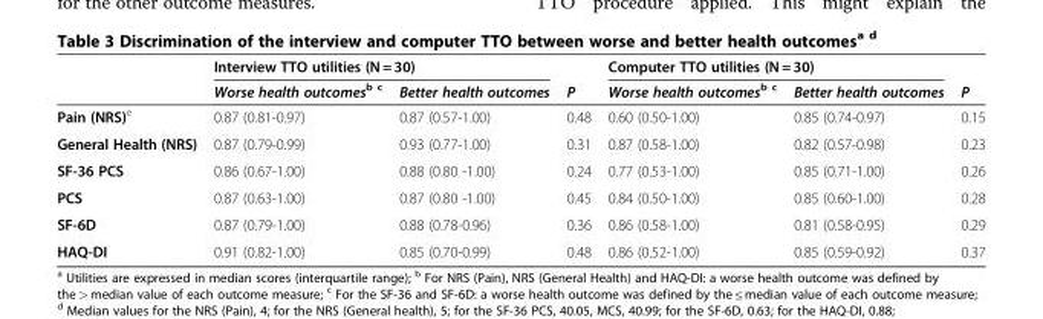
<table><thead><tr><td rowspan="2"></td><td colspan="2">Interview TTO utilities (N = 30)</td><td rowspan="2">P</td><td colspan="2">Computer TTO utilities (N = 30)</td><td rowspan="2">P</td></tr><tr><td>Worse health outcomes<sup>b c</sup></td><td>Better health outcomes</td><td>Worse health outcomes<sup>b c</sup></td><td>Better health outcomes</td></tr></thead><tbody><tr><td>Pain (NRS)<sup>e</sup></td><td>0.87 (0.81-0.97)</td><td>0.87 (0.57-1.00)</td><td>0.48</td><td>0.60 (0.50-1.00)</td><td>0.85 (0.74-0.97)</td><td>0.15</td></tr><tr><td>General Health (NRS)</td><td>0.87 (0.79-0.99)</td><td>0.93 (0.77-1.00)</td><td>0.31</td><td>0.87 (0.58-1.00)</td><td>0.82 (0.57-0.98)</td><td>0.23</td></tr><tr><td>SF-36 PCS</td><td>0.86 (0.67-1.00)</td><td>0.88 (0.80 -1.00)</td><td>0.24</td><td>0.77 (0.53-1.00)</td><td>0.85 (0.71-1.00)</td><td>0.26</td></tr><tr><td>PCS</td><td>0.87 (0.63-1.00)</td><td>0.87 (0.80 -1.00)</td><td>0.45</td><td>0.84 (0.50-1.00)</td><td>0.85 (0.60-1.00)</td><td>0.28</td></tr><tr><td>SF-6D</td><td>0.87 (0.79-1.00)</td><td>0.88 (0.78-0.96)</td><td>0.36</td><td>0.86 (0.58-1.00)</td><td>0.81 (0.58-0.95)</td><td>0.29</td></tr><tr><td>HAQ-DI</td><td>0.91 (0.82-1.00)</td><td>0.85 (0.70-0.99)</td><td>0.48</td><td>0.86 (0.52-1.00)</td><td>0.85 (0.59-0.92)</td><td>0.37</td></tr></tbody></table>